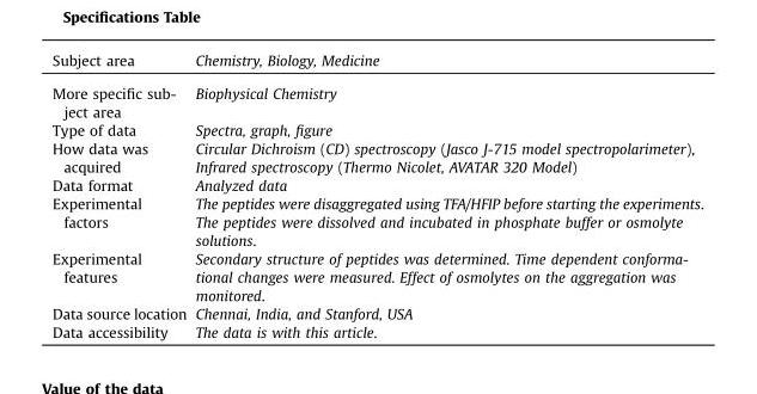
<table><thead><tr><td>Subject area</td><td>Chemistry, Biology, Medicine</td></tr></thead><tbody><tr><td>More specific sub- ject area</td><td>Biophysical Chemistry</td></tr><tr><td>Type of data</td><td>Spectra, graph, figure</td></tr><tr><td>How data was acquired</td><td>Circular Dichroism (CD) spectroscopy (Jasco J-715 model spectropolarimeter), Infrared spectroscopy (Thermo Nicolet, AVATAR 320 Model)</td></tr><tr><td>Data format</td><td>Analyzed data</td></tr><tr><td>Experimental factors</td><td>The peptides were disaggregated using TFA/HFIP before starting the experiments. The peptides were dissolved and incubated in phosphate buffer or osmolyte solutions.</td></tr><tr><td>Experimental features</td><td>Secondary structure of peptides was determined. Time dependent conforma- tional changes were measured. Effect of osmolytes on the aggregation was monitored.</td></tr><tr><td>Data source location</td><td>Chennai, India, and Stanford, USA</td></tr><tr><td>Data accessibility</td><td>The data is with this article.</td></tr></tbody></table>